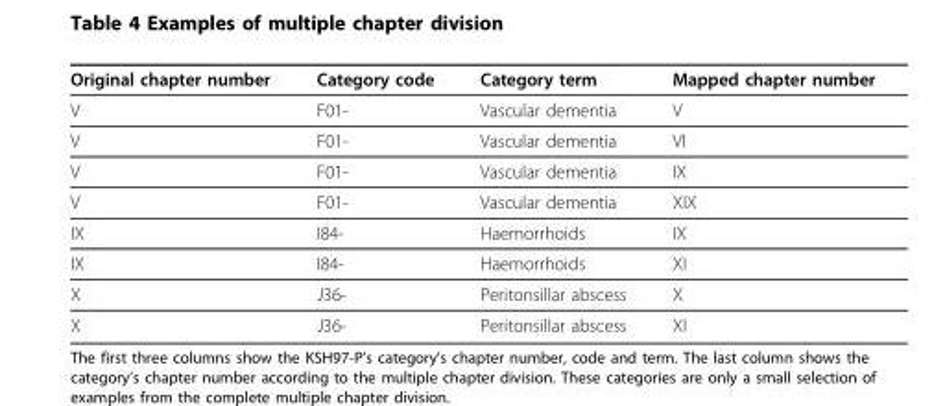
<table><thead><tr><td>Original chapter number</td><td>Category code</td><td>Category term</td><td>Mapped chapter number</td></tr></thead><tbody><tr><td>V</td><td>F01-</td><td>Vascular dementia</td><td>V</td></tr><tr><td>V</td><td>F01-</td><td>Vascular dementia</td><td>VI</td></tr><tr><td>V</td><td>F01-</td><td>Vascular dementia</td><td>IX</td></tr><tr><td>V</td><td>F01-</td><td>Vascular dementia</td><td>XIX</td></tr><tr><td>IX</td><td>I84-</td><td>Haemorrhoids</td><td>IX</td></tr><tr><td>IX</td><td>I84-</td><td>Haemorrhoids</td><td>XI</td></tr><tr><td>X</td><td>J36-</td><td>Peritonsillar abscess</td><td>X</td></tr><tr><td>X</td><td>J36-</td><td>Peritonsillar abscess</td><td>XI</td></tr></tbody></table>